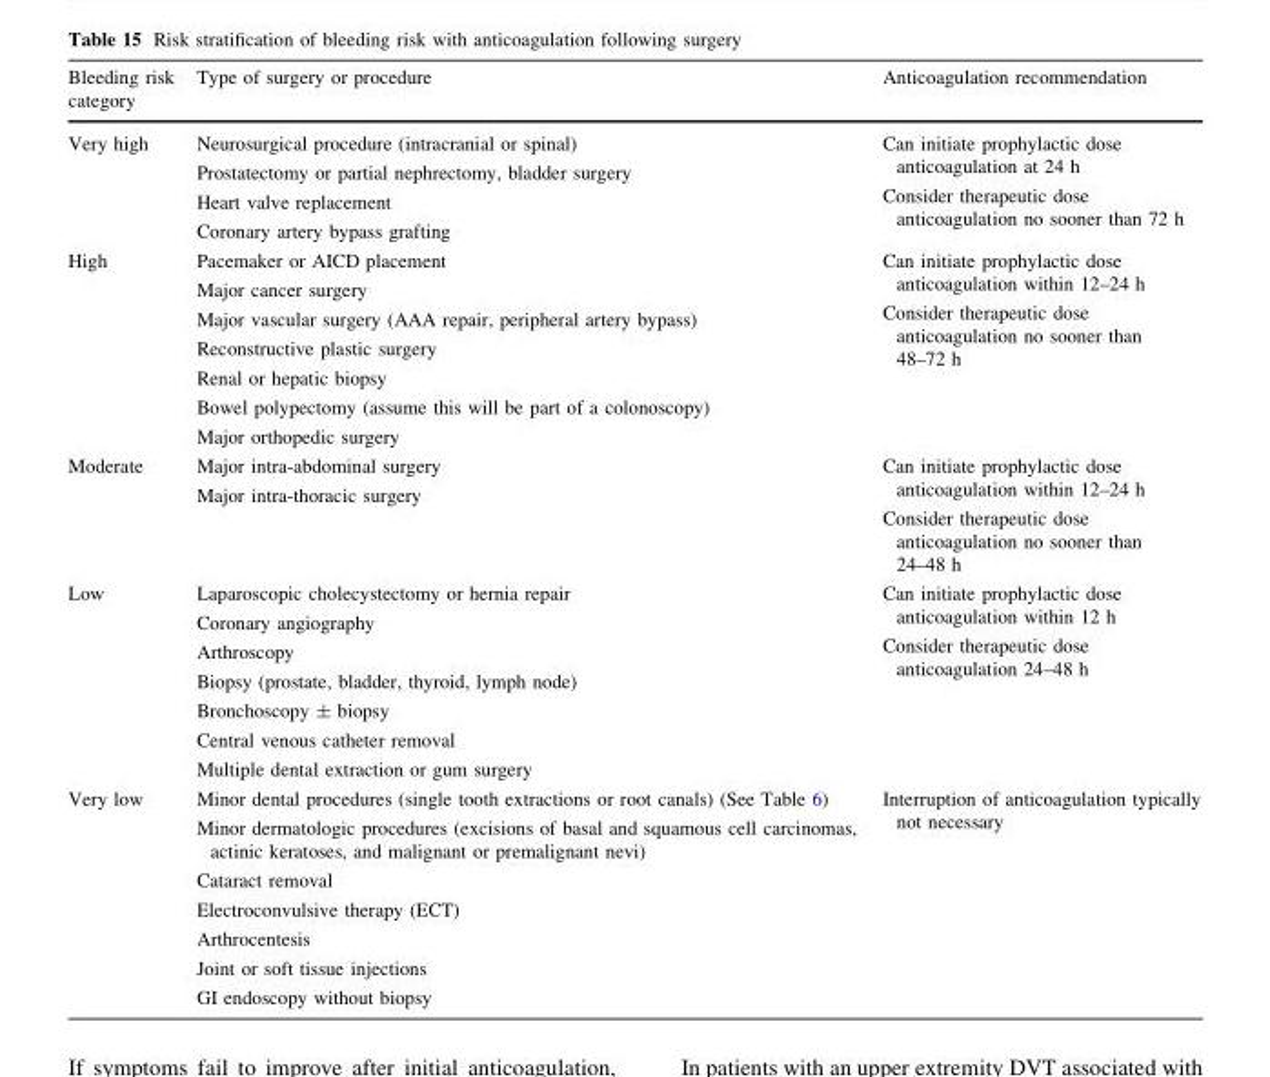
<table><thead><tr><td>Bleeding risk category</td><td>Type of surgery or procedure</td><td>Anticoagulation recommendation</td></tr></thead><tbody><tr><td>Very high</td><td>Neurosurgical procedure (intracranial or spinal) Prostatectomy or partial nephrectomy, bladder surgery Heart valve replacement Coronary artery bypass grafting</td><td>Can initiate prophylactic dose anticoagulation at 24 h Consider therapeutic dose anticoagulation no sooner than 72 h</td></tr><tr><td>High</td><td>Pacemaker or AICD placement Major cancer surgery Major vascular surgery (AAA repair, peripheral artery bypass) Reconstructive plastic surgery Renal or hepatic biopsy Bowel polypectomy (assume this will be part of a colonoscopy) Major orthopedic surgery</td><td>Can initiate prophylactic dose anticoagulation within 12–24 h Consider therapeutic dose anticoagulation no sooner than 48–72 h</td></tr><tr><td>Moderate</td><td>Major intra-abdominal surgery Major intra-thoracic surgery</td><td>Can initiate prophylactic dose anticoagulation within 12–24 h Consider therapeutic dose anticoagulation no sooner than 24–48 h</td></tr><tr><td>Low</td><td>Laparoscopic cholecystectomy or hernia repair Coronary angiography Arthroscopy Biopsy (prostate, bladder, thyroid, lymph node) Bronchoscopy ± biopsy Central venous catheter removal Multiple dental extraction or gum surgery</td><td>Can initiate prophylactic dose anticoagulation within 12 h Consider therapeutic dose anticoagulation 24–48 h</td></tr><tr><td>Very low</td><td>Minor dental procedures (single tooth extractions or root canals) (See Table 6) Minor dermatologic procedures (excisions of basal and squamous cell carcinomas, actinic keratoses, and malignant or premalignant nevi) Cataract removal Electroconvulsive therapy (ECT) Arthrocentesis Joint or soft tissue injections GI endoscopy without biopsy</td><td>Interruption of anticoagulation typically not necessary</td></tr></tbody></table>